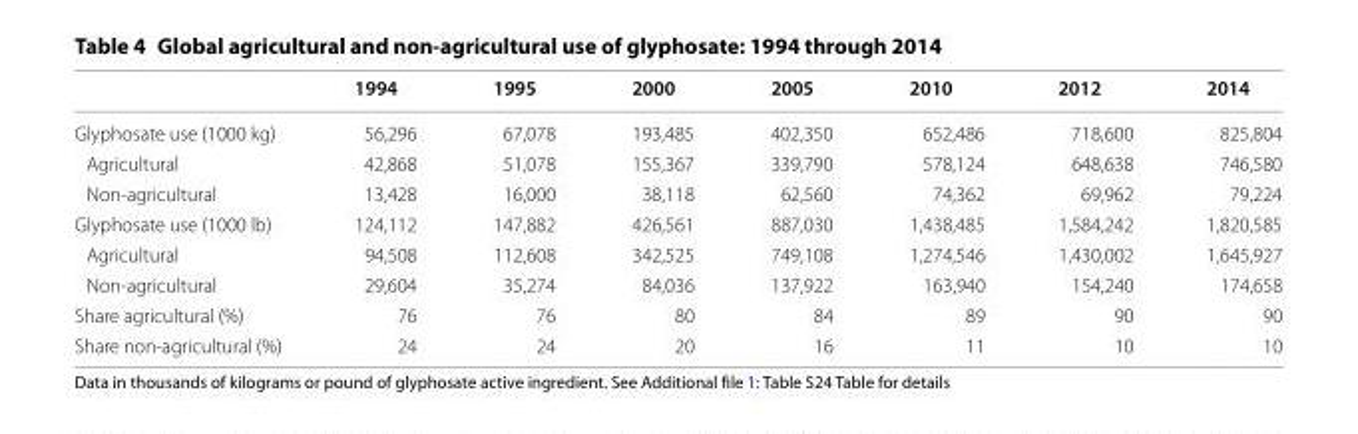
<table><thead><tr><td></td><td>1994</td><td>1995</td><td>2000</td><td>2005</td><td>2010</td><td>2012</td><td>2014</td></tr></thead><tbody><tr><td>Glyphosate use (1000 kg)</td><td>56,296</td><td>67,078</td><td>193,485</td><td>402,350</td><td>652,486</td><td>718,600</td><td>825,804</td></tr><tr><td>Agricultural</td><td>42,868</td><td>51,078</td><td>155,367</td><td>339,790</td><td>578,124</td><td>648,638</td><td>746,580</td></tr><tr><td>Non-agricultural</td><td>13,428</td><td>16,000</td><td>38,118</td><td>62,560</td><td>74,362</td><td>69,962</td><td>79,224</td></tr><tr><td>Glyphosate use (1000 lb)</td><td>124,112</td><td>147,882</td><td>426,561</td><td>887,030</td><td>1,438,485</td><td>1,584,242</td><td>1,820,585</td></tr><tr><td>Agricultural</td><td>94,508</td><td>112,608</td><td>342,525</td><td>749,108</td><td>1,274,546</td><td>1,430,002</td><td>1,645,927</td></tr><tr><td>Non-agricultural</td><td>29,604</td><td>35,274</td><td>84,036</td><td>137,922</td><td>163,940</td><td>154,240</td><td>174,658</td></tr><tr><td>Share agricultural (%)</td><td>76</td><td>76</td><td>80</td><td>84</td><td>89</td><td>90</td><td>90</td></tr><tr><td>Share non-agricultural (%)</td><td>24</td><td>24</td><td>20</td><td>16</td><td>11</td><td>10</td><td>10</td></tr></tbody></table>